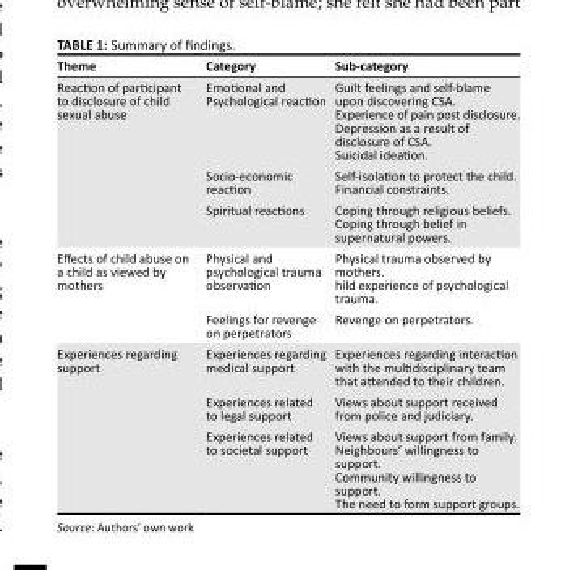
<table><thead><tr><td>Theme</td><td>Category</td><td>Sub-category</td></tr></thead><tbody><tr><td rowspan="3">Reaction of participant to disclosure of child sexual abuse</td><td>Emotional and Psychological reaction</td><td>Guilt feelings and self-blame upon discovering CSA. Experience of pain post disclosure. Depression as a result of disclosure of CSA. Suicidal ideation.</td></tr><tr><td>Socio-economic reaction</td><td>Self-isolation to protect the child. Financial constraints.</td></tr><tr><td>Spiritual reactions</td><td>Coping through religious beliefs. Coping through belief in supernatural powers.</td></tr><tr><td rowspan="2">Effects of child abuse on a child as viewed by mothers</td><td>Physical and psychological trauma observation</td><td>Physical trauma observed by mothers. hild experience of psychological trauma.</td></tr><tr><td>Feelings for revenge on perpetrators</td><td>Revenge on perpetrators.</td></tr><tr><td rowspan="3">Experiences regarding support</td><td>Experiences regarding medical support</td><td>Experiences regarding interaction with the multidisciplinary team that attended to their children.</td></tr><tr><td>Experiences related to legal support</td><td>Views about support received from police and judiciary.</td></tr><tr><td>Experiences related to societal support</td><td>Views about support from family. Neighbours’ willingness to support. Community willingness to support. The need to form support groups.</td></tr></tbody></table>